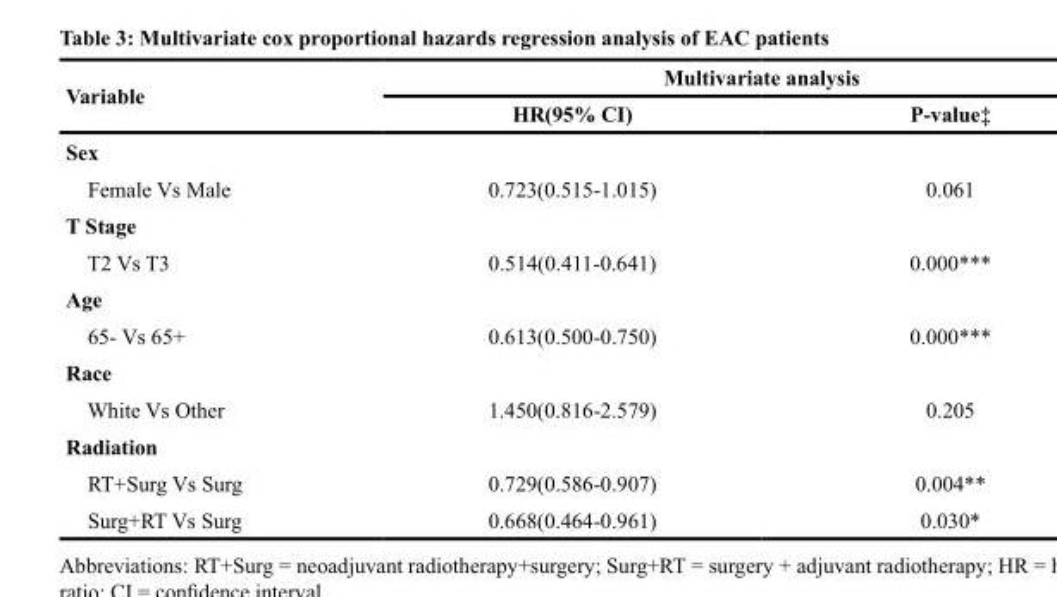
<table><thead><tr><td rowspan="2">Variable</td><td colspan="2">Multivariate analysis</td></tr><tr><td>HR(95% CI)</td><td>P-value<sup>‡</sup></td></tr></thead><tbody><tr><td colspan="3">Sex</td></tr><tr><td>Female Vs Male</td><td>0.723(0.515-1.015)</td><td>0.061</td></tr><tr><td colspan="3">T Stage</td></tr><tr><td>T2 Vs T3</td><td>0.514(0.411-0.641)</td><td>0.000***</td></tr><tr><td colspan="3">Age</td></tr><tr><td>65- Vs 65+</td><td>0.613(0.500-0.750)</td><td>0.000***</td></tr><tr><td colspan="3">Race</td></tr><tr><td>White Vs Other</td><td>1.450(0.816-2.579)</td><td>0.205</td></tr><tr><td colspan="3">Radiation</td></tr><tr><td>RT+Surg Vs Surg</td><td>0.729(0.586-0.907)</td><td>0.004**</td></tr><tr><td>Surg+RT Vs Surg</td><td>0.668(0.464-0.961)</td><td>0.030*</td></tr></tbody></table>